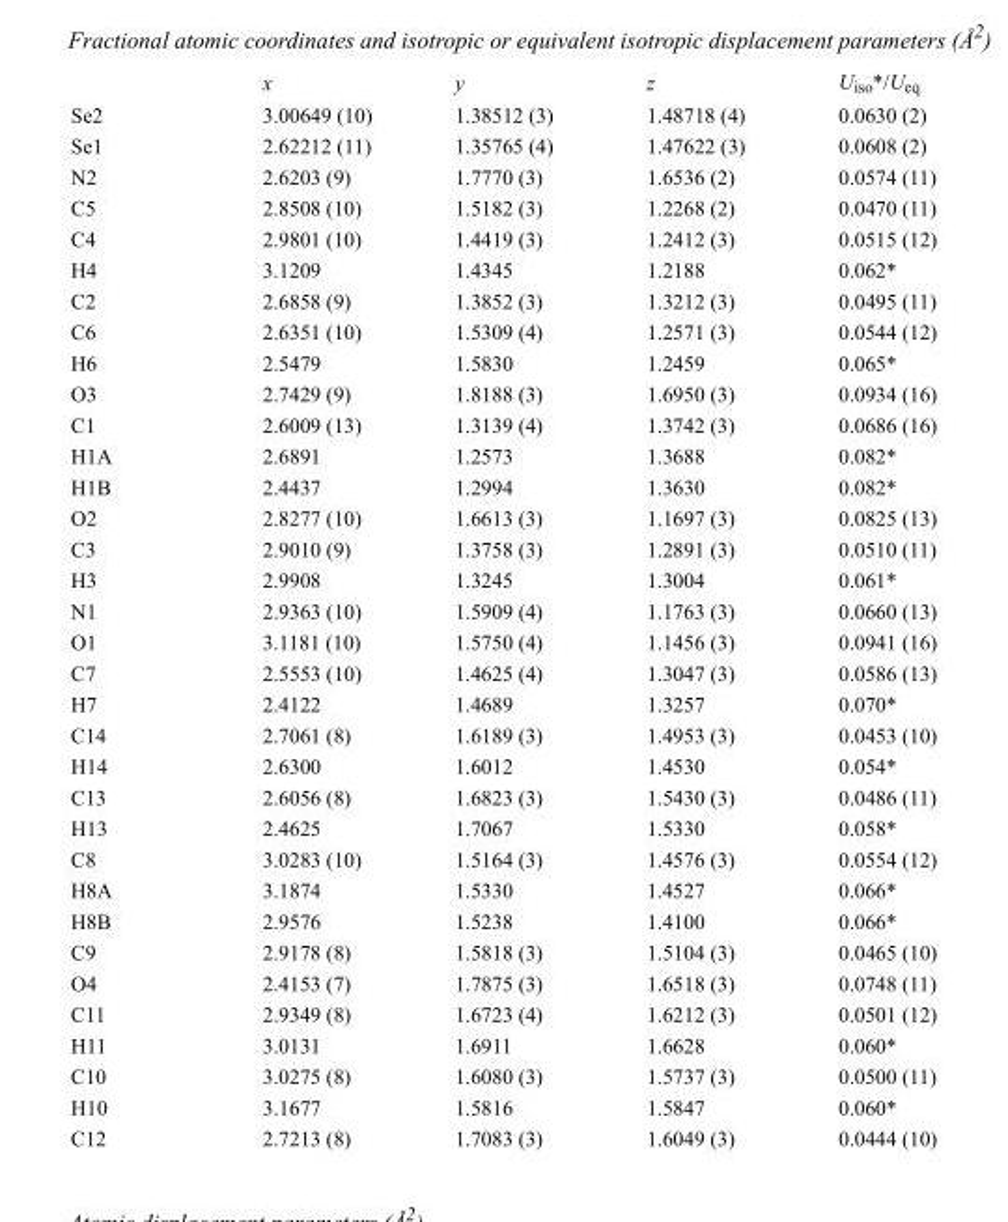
<table><thead><tr><td></td><td>x</td><td>y</td><td>z</td><td>U<sub>iso</sub>*/U<sub>eq</sub></td></tr></thead><tbody><tr><td>Se2</td><td>3.00649 (10)</td><td>1.38512 (3)</td><td>1.48718 (4)</td><td>0.0630 (2)</td></tr><tr><td>Se1</td><td>2.62212 (11)</td><td>1.35765 (4)</td><td>1.47622 (3)</td><td>0.0608 (2)</td></tr><tr><td>N2</td><td>2.6203 (9)</td><td>1.7770 (3)</td><td>1.6536 (2)</td><td>0.0574 (11)</td></tr><tr><td>C5</td><td>2.8508 (10)</td><td>1.5182 (3)</td><td>1.2268 (2)</td><td>0.0470 (11)</td></tr><tr><td>C4</td><td>2.9801 (10)</td><td>1.4419 (3)</td><td>1.2412 (3)</td><td>0.0515 (12)</td></tr><tr><td>H4</td><td>3.1209</td><td>1.4345</td><td>1.2188</td><td>0.062*</td></tr><tr><td>C2</td><td>2.6858 (9)</td><td>1.3852 (3)</td><td>1.3212 (3)</td><td>0.0495 (11)</td></tr><tr><td>C6</td><td>2.6351 (10)</td><td>1.5309 (4)</td><td>1.2571 (3)</td><td>0.0544 (12)</td></tr><tr><td>H6</td><td>2.5479</td><td>1.5830</td><td>1.2459</td><td>0.065*</td></tr><tr><td>O3</td><td>2.7429 (9)</td><td>1.8188 (3)</td><td>1.6950 (3)</td><td>0.0934 (16)</td></tr><tr><td>C1</td><td>2.6009 (13)</td><td>1.3139 (4)</td><td>1.3742 (3)</td><td>0.0686 (16)</td></tr><tr><td>H1A</td><td>2.6891</td><td>1.2573</td><td>1.3688</td><td>0.082*</td></tr><tr><td>H1B</td><td>2.4437</td><td>1.2994</td><td>1.3630</td><td>0.082*</td></tr><tr><td>O2</td><td>2.8277 (10)</td><td>1.6613 (3)</td><td>1.1697 (3)</td><td>0.0825 (13)</td></tr><tr><td>C3</td><td>2.9010 (9)</td><td>1.3758 (3)</td><td>1.2891 (3)</td><td>0.0510 (11)</td></tr><tr><td>H3</td><td>2.9908</td><td>1.3245</td><td>1.3004</td><td>0.061*</td></tr><tr><td>N1</td><td>2.9363 (10)</td><td>1.5909 (4)</td><td>1.1763 (3)</td><td>0.0660 (13)</td></tr><tr><td>O1</td><td>3.1181 (10)</td><td>1.5750 (4)</td><td>1.1456 (3)</td><td>0.0941 (16)</td></tr><tr><td>C7</td><td>2.5553 (10)</td><td>1.4625 (4)</td><td>1.3047 (3)</td><td>0.0586 (13)</td></tr><tr><td>H7</td><td>2.4122</td><td>1.4689</td><td>1.3257</td><td>0.070*</td></tr><tr><td>C14</td><td>2.7061 (8)</td><td>1.6189 (3)</td><td>1.4953 (3)</td><td>0.0453 (10)</td></tr><tr><td>H14</td><td>2.6300</td><td>1.6012</td><td>1.4530</td><td>0.054*</td></tr><tr><td>C13</td><td>2.6056 (8)</td><td>1.6823 (3)</td><td>1.5430 (3)</td><td>0.0486 (11)</td></tr><tr><td>H13</td><td>2.4625</td><td>1.7067</td><td>1.5330</td><td>0.058*</td></tr><tr><td>C8</td><td>3.0283 (10)</td><td>1.5164 (3)</td><td>1.4576 (3)</td><td>0.0554 (12)</td></tr><tr><td>H8A</td><td>3.1874</td><td>1.5330</td><td>1.4527</td><td>0.066*</td></tr><tr><td>H8B</td><td>2.9576</td><td>1.5238</td><td>1.4100</td><td>0.066*</td></tr><tr><td>C9</td><td>2.9178 (8)</td><td>1.5818 (3)</td><td>1.5104 (3)</td><td>0.0465 (10)</td></tr><tr><td>O4</td><td>2.4153 (7)</td><td>1.7875 (3)</td><td>1.6518 (3)</td><td>0.0748 (11)</td></tr><tr><td>C11</td><td>2.9349 (8)</td><td>1.6723 (4)</td><td>1.6212 (3)</td><td>0.0501 (12)</td></tr><tr><td>H11</td><td>3.0131</td><td>1.6911</td><td>1.6628</td><td>0.060*</td></tr><tr><td>C10</td><td>3.0275 (8)</td><td>1.6080 (3)</td><td>1.5737 (3)</td><td>0.0500 (11)</td></tr><tr><td>H10</td><td>3.1677</td><td>1.5816</td><td>1.5847</td><td>0.060*</td></tr><tr><td>C12</td><td>2.7213 (8)</td><td>1.7083 (3)</td><td>1.6049 (3)</td><td>0.0444 (10)</td></tr></tbody></table>